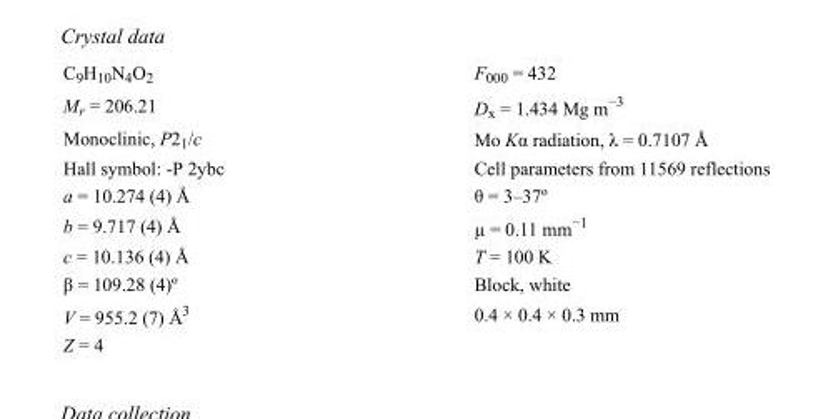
<table><tbody><tr><td>C<sub>9</sub>H<sub>10</sub>N<sub>4</sub>O<sub>2</sub></td><td>F000 = 432</td></tr><tr><td>M<sub>r</sub> = 206.21</td><td>D<sub>x</sub> = 1.434 Mg m<sup>−3</sup></td></tr><tr><td>Monoclinic, P2<sub>1</sub>/c</td><td>Mo Kα radiation, λ = 0.7107 Å</td></tr><tr><td>Hall symbol: -P 2ybc</td><td>Cell parameters from 11569 reflections</td></tr><tr><td>a = 10.274 (4) Å</td><td>θ = 3–37º</td></tr><tr><td>b = 9.717 (4) Å</td><td>µ = 0.11 mm<sup>−1</sup></td></tr><tr><td>c = 10.136 (4) Å</td><td>T = 100 K</td></tr><tr><td>β = 109.28 (4)º</td><td>Block, white</td></tr><tr><td>V = 955.2 (7) Å<sup>3</sup></td><td>0.4 × 0.4 × 0.3 mm</td></tr><tr><td>Z = 4</td><td></td></tr></tbody></table>